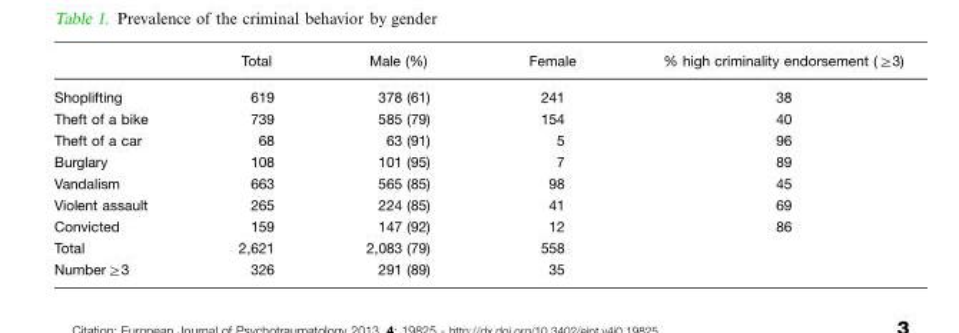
<table><thead><tr><td></td><td>Total</td><td>Male (%)</td><td>Female</td><td>% high criminality endorsement (≥3)</td></tr></thead><tbody><tr><td>Shoplifting</td><td>619</td><td>378 (61)</td><td>241</td><td>38</td></tr><tr><td>Theft of a bike</td><td>739</td><td>585 (79)</td><td>154</td><td>40</td></tr><tr><td>Theft of a car</td><td>68</td><td>63 (91)</td><td>5</td><td>96</td></tr><tr><td>Burglary</td><td>108</td><td>101 (95)</td><td>7</td><td>89</td></tr><tr><td>Vandalism</td><td>663</td><td>565 (85)</td><td>98</td><td>45</td></tr><tr><td>Violent assault</td><td>265</td><td>224 (85)</td><td>41</td><td>69</td></tr><tr><td>Convicted</td><td>159</td><td>147 (92)</td><td>12</td><td>86</td></tr><tr><td>Total</td><td>2,621</td><td>2,083 (79)</td><td>558</td><td></td></tr><tr><td>Number≥3</td><td>326</td><td>291 (89)</td><td>35</td><td></td></tr></tbody></table>